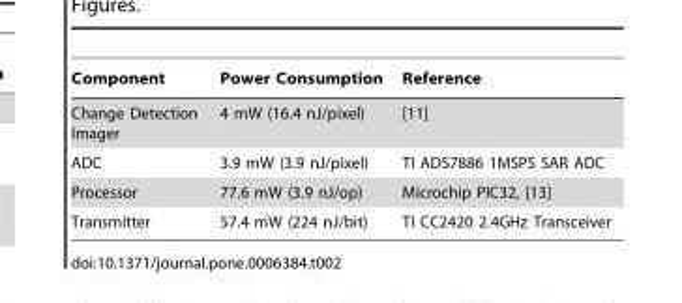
<table><thead><tr><td>Component</td><td>Power Consumption</td><td>Reference</td></tr></thead><tbody><tr><td>Change Detection Imager</td><td>4 mW (16.4 nJ/pixel)</td><td>[11]</td></tr><tr><td>ADC</td><td>3.9 mW (3.9 nJ/pixel)</td><td>TI ADS7886 1MSPS SAR ADC</td></tr><tr><td>Processor</td><td>77.6 mW (3.9 nJ/op)</td><td>Microchip PIC32, [13]</td></tr><tr><td>Transmitter</td><td>57.4 mW (224 nJ/bit)</td><td>TI CC2420 2.4GHz Transceiver</td></tr></tbody></table>